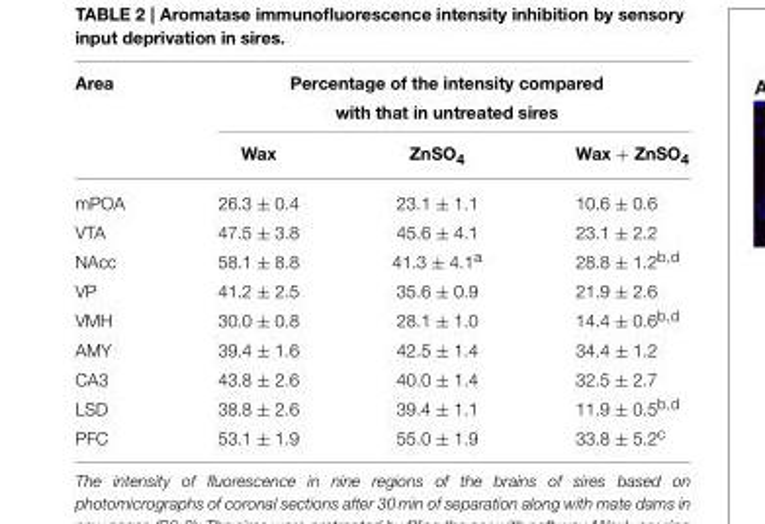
<table><thead><tr><td rowspan="2">Area</td><td colspan="3">Percentage of the intensity compared with that in untreated sires</td></tr><tr><td>Wax</td><td>ZnSO<sub>4</sub></td><td>Wax + ZnSO<sub>4</sub></td></tr></thead><tbody><tr><td>mPOA</td><td>26.3 ± 0.4</td><td>23.1 ± 1.1</td><td>10.6 ± 0.6</td></tr><tr><td>VTA</td><td>47.5 ± 3.8</td><td>45.6 ± 4.1</td><td>23.1 ± 2.2</td></tr><tr><td>NAcc</td><td>58.1 ± 8.8</td><td>41.3 ± 4.1<sup>a</sup></td><td>28.8 ± 1.2<sup>b,d</sup></td></tr><tr><td>VP</td><td>41.2 ± 2.5</td><td>35.6 ± 0.9</td><td>21.9 ± 2.6</td></tr><tr><td>VMH</td><td>30.0 ± 0.8</td><td>28.1 ± 1.0</td><td>14.4 ± 0.6<sup>b,d</sup></td></tr><tr><td>AMY</td><td>39.4 ± 1.6</td><td>42.5 ± 1.4</td><td>34.4 ± 1.2</td></tr><tr><td>CA3</td><td>43.8 ± 2.6</td><td>40.0 ± 1.4</td><td>32.5 ± 2.7</td></tr><tr><td>LSD</td><td>38.8 ± 2.6</td><td>39.4 ± 1.1</td><td>11.9 ± 0.5<sup>b,d</sup></td></tr><tr><td>PFC</td><td>53.1 ± 1.9</td><td>55.0 ± 1.9</td><td>33.8 ± 5.2<sup>c</sup></td></tr></tbody></table>